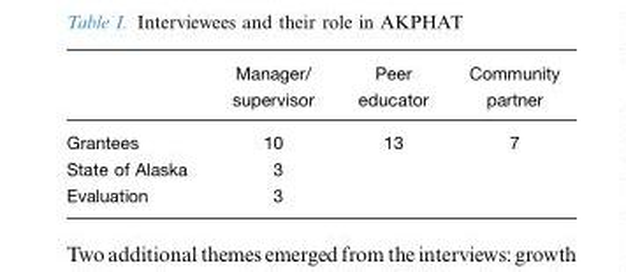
<table><thead><tr><td></td><td>Manager/ supervisor</td><td>Peer educator</td><td>Community partner</td></tr></thead><tbody><tr><td>Grantees</td><td>10</td><td>13</td><td>7</td></tr><tr><td>State of Alaska</td><td>3</td><td></td><td></td></tr><tr><td>Evaluation</td><td>3</td><td></td><td></td></tr></tbody></table>